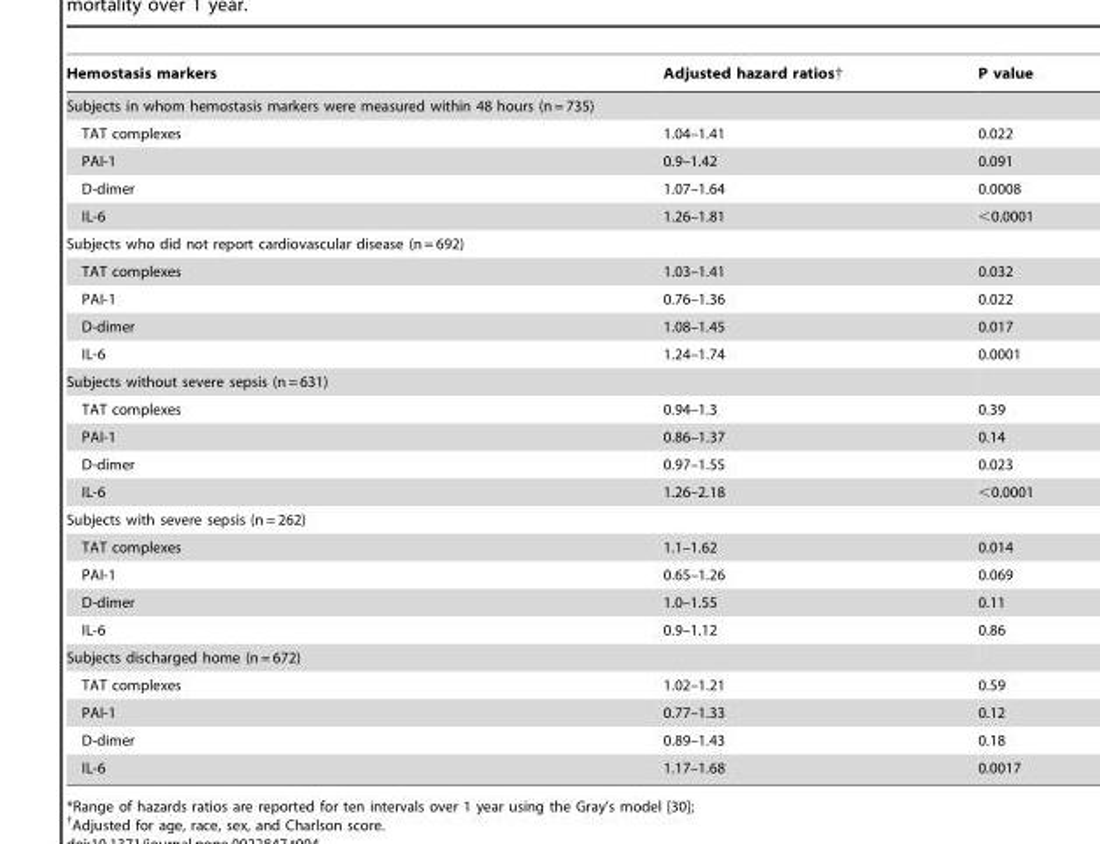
<table><thead><tr><td>Hemostasis markers</td><td>Adjusted hazard ratios†</td><td>P value</td></tr></thead><tbody><tr><td colspan="3">Subjects in whom hemostasis markers were measured within 48 hours (n = 735)</td></tr><tr><td>TAT complexes</td><td>1.04–1.41</td><td>0.022</td></tr><tr><td>PAI-1</td><td>0.9–1.42</td><td>0.091</td></tr><tr><td>D-dimer</td><td>1.07–1.64</td><td>0.0008</td></tr><tr><td>IL-6</td><td>1.26–1.81</td><td>&lt;0.0001</td></tr><tr><td colspan="3">Subjects who did not report cardiovascular disease (n = 692)</td></tr><tr><td>TAT complexes</td><td>1.03–1.41</td><td>0.032</td></tr><tr><td>PAI-1</td><td>0.76–1.36</td><td>0.022</td></tr><tr><td>D-dimer</td><td>1.08–1.45</td><td>0.017</td></tr><tr><td>IL-6</td><td>1.24–1.74</td><td>0.0001</td></tr><tr><td colspan="3">Subjects without severe sepsis (n = 631)</td></tr><tr><td>TAT complexes</td><td>0.94–1.3</td><td>0.39</td></tr><tr><td>PAI-1</td><td>0.86–1.37</td><td>0.14</td></tr><tr><td>D-dimer</td><td>0.97–1.55</td><td>0.023</td></tr><tr><td>IL-6</td><td>1.26–2.18</td><td>&lt;0.0001</td></tr><tr><td colspan="3">Subjects with severe sepsis (n = 262)</td></tr><tr><td>TAT complexes</td><td>1.1–1.62</td><td>0.014</td></tr><tr><td>PAI-1</td><td>0.65–1.26</td><td>0.069</td></tr><tr><td>D-dimer</td><td>1.0–1.55</td><td>0.11</td></tr><tr><td>IL-6</td><td>0.9–1.12</td><td>0.86</td></tr><tr><td colspan="3">Subjects discharged home (n = 672)</td></tr><tr><td>TAT complexes</td><td>1.02–1.21</td><td>0.59</td></tr><tr><td>PAI-1</td><td>0.77–1.33</td><td>0.12</td></tr><tr><td>D-dimer</td><td>0.89–1.43</td><td>0.18</td></tr><tr><td>IL-6</td><td>1.17–1.68</td><td>0.0017</td></tr></tbody></table>